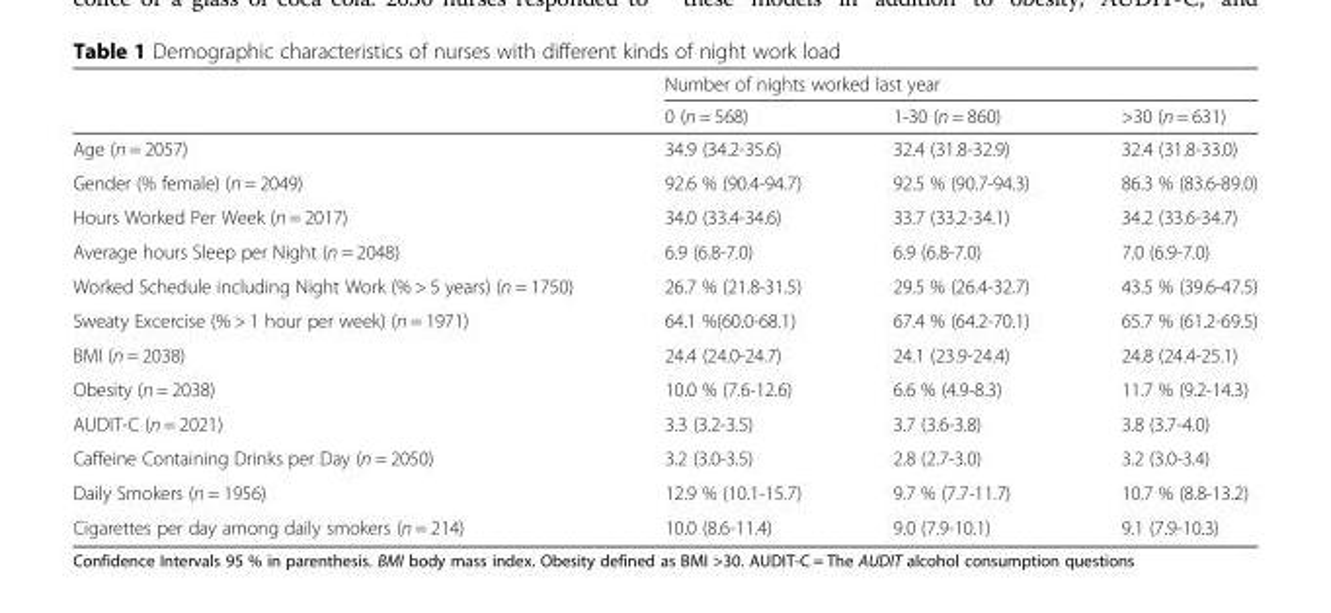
<table><thead><tr><td rowspan="2"></td><td colspan="3">Number of nights worked last year</td></tr><tr><td>0 (n = 568)</td><td>1-30 (n = 860)</td><td>&gt;30 (n = 631)</td></tr></thead><tbody><tr><td>Age (n = 2057)</td><td>34.9 (34.2-35.6)</td><td>32.4 (31.8-32.9)</td><td>32.4 (31.8-33.0)</td></tr><tr><td>Gender (% female) (n = 2049)</td><td>92.6 % (90.4-94.7)</td><td>92.5 % (90.7-94.3)</td><td>86.3 % (83.6-89.0)</td></tr><tr><td>Hours Worked Per Week (n = 2017)</td><td>34.0 (33.4-34.6)</td><td>33.7 (33.2-34.1)</td><td>34.2 (33.6-34.7)</td></tr><tr><td>Average hours Sleep per Night (n = 2048)</td><td>6.9 (6.8-7.0)</td><td>6.9 (6.8-7.0)</td><td>7.0 (6.9-7.0)</td></tr><tr><td>Worked Schedule including Night Work (% &gt; 5 years) (n = 1750)</td><td>26.7 % (21.8-31.5)</td><td>29.5 % (26.4-32.7)</td><td>43.5 % (39.6-47.5)</td></tr><tr><td>Sweaty Excercise (% &gt; 1 hour per week) (n = 1971)</td><td>64.1 %(60.0-68.1)</td><td>67.4 % (64.2-70.1)</td><td>65.7 % (61.2-69.5)</td></tr><tr><td>BMI (n = 2038)</td><td>24.4 (24.0-24.7)</td><td>24.1 (23.9-24.4)</td><td>24.8 (24.4-25.1)</td></tr><tr><td>Obesity (n = 2038)</td><td>10.0 % (7.6-12.6)</td><td>6.6 % (4.9-8.3)</td><td>11.7 % (9.2-14.3)</td></tr><tr><td>AUDIT-C (n = 2021)</td><td>3.3 (3.2-3.5)</td><td>3.7 (3.6-3.8)</td><td>3.8 (3.7-4.0)</td></tr><tr><td>Caffeine Containing Drinks per Day (n = 2050)</td><td>3.2 (3.0-3.5)</td><td>2.8 (2.7-3.0)</td><td>3.2 (3.0-3.4)</td></tr><tr><td>Daily Smokers (n = 1956)</td><td>12.9 % (10.1-15.7)</td><td>9.7 % (7.7-11.7)</td><td>10.7 % (8.8-13.2)</td></tr><tr><td>Cigarettes per day among daily smokers (n = 214)</td><td>10.0 (8.6-11.4)</td><td>9.0 (7.9-10.1)</td><td>9.1 (7.9-10.3)</td></tr></tbody></table>